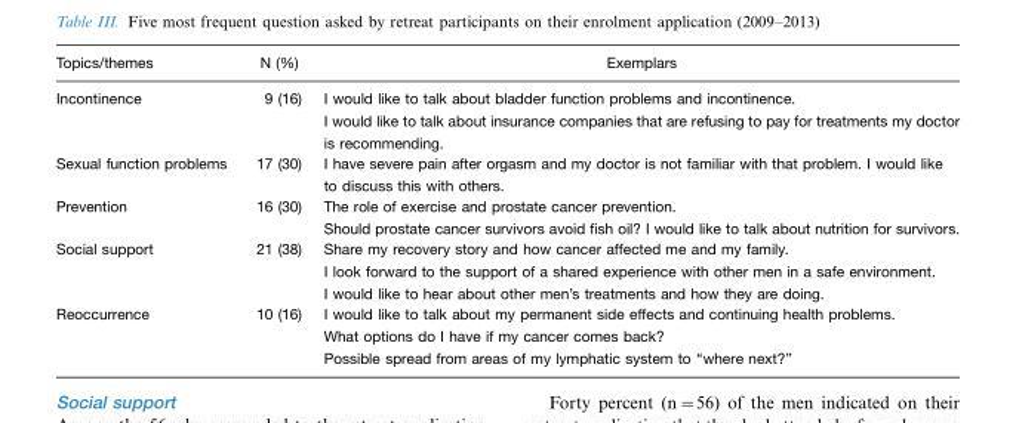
<table><thead><tr><td>Topics/themes</td><td>N (%)</td><td>Exemplars</td></tr></thead><tbody><tr><td rowspan="2">Incontinence</td><td>9 (16)</td><td>I would like to talk about bladder function problems and incontinence.</td></tr><tr><td></td><td>I would like to talk about insurance companies that are refusing to pay for treatments my doctor is recommending.</td></tr><tr><td>Sexual function problems</td><td>17 (30)</td><td>I have severe pain after orgasm and my doctor is not familiar with that problem. I would like to discuss this with others.</td></tr><tr><td rowspan="2">Prevention</td><td>16 (30)</td><td>The role of exercise and prostate cancer prevention.</td></tr><tr><td></td><td>Should prostate cancer survivors avoid fish oil? I would like to talk about nutrition for survivors.</td></tr><tr><td rowspan="3">Social support</td><td>21 (38)</td><td>Share my recovery story and how cancer affected me and my family.</td></tr><tr><td></td><td>I look forward to the support of a shared experience with other men in a safe environment.</td></tr><tr><td></td><td>I would like to hear about other men’s treatments and how they are doing.</td></tr><tr><td rowspan="3">Reoccurrence</td><td>10 (16)</td><td>I would like to talk about my permanent side effects and continuing health problems.</td></tr><tr><td></td><td>What options do I have if my cancer comes back?</td></tr><tr><td></td><td>Possible spread from areas of my lymphatic system to ‘‘where next?’’</td></tr></tbody></table>